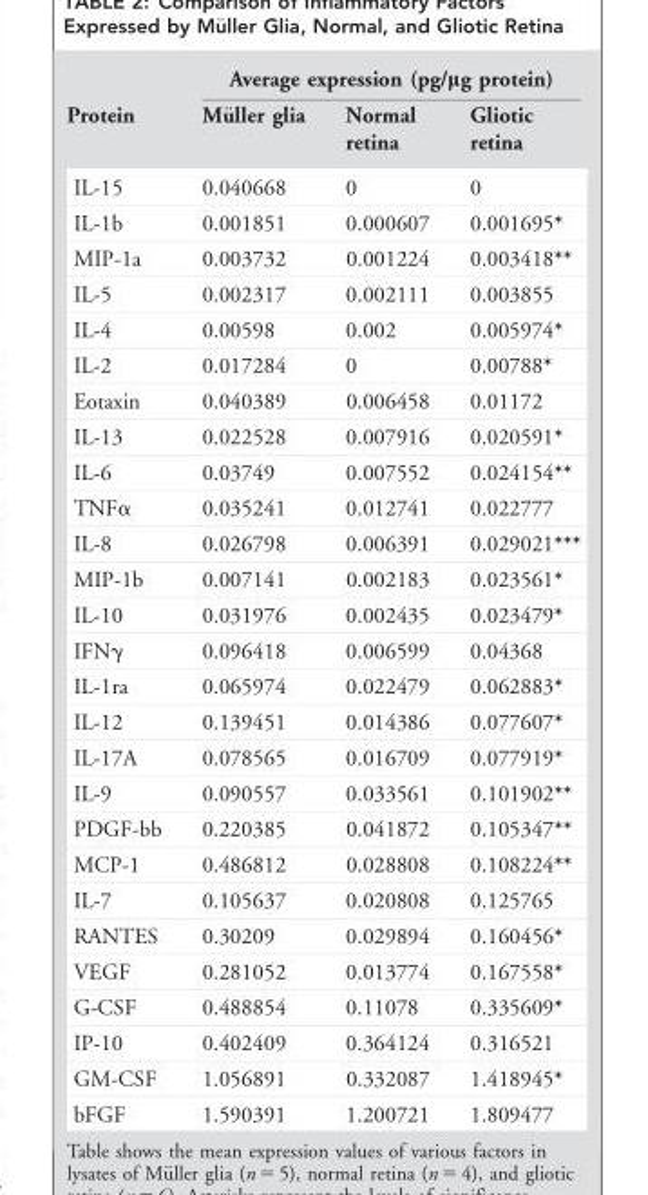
<table><thead><tr><td rowspan="2">Protein</td><td colspan="3">Average expression (pg/μg protein)</td></tr><tr><td>M€uller glia</td><td>Normal retina</td><td>Gliotic retina</td></tr></thead><tbody><tr><td>IL-15</td><td>0.040668</td><td>0</td><td>0</td></tr><tr><td>IL-1b</td><td>0.001851</td><td>0.000607</td><td>0.001695*</td></tr><tr><td>MIP-1a</td><td>0.003732</td><td>0.001224</td><td>0.003418**</td></tr><tr><td>IL-5</td><td>0.002317</td><td>0.002111</td><td>0.003855</td></tr><tr><td>IL-4</td><td>0.00598</td><td>0.002</td><td>0.005974*</td></tr><tr><td>IL-2</td><td>0.017284</td><td>0</td><td>0.00788*</td></tr><tr><td>Eotaxin</td><td>0.040389</td><td>0.006458</td><td>0.01172</td></tr><tr><td>IL-13</td><td>0.022528</td><td>0.007916</td><td>0.020591*</td></tr><tr><td>IL-6</td><td>0.03749</td><td>0.007552</td><td>0.024154**</td></tr><tr><td>TNFα</td><td>0.035241</td><td>0.012741</td><td>0.022777</td></tr><tr><td>IL-8</td><td>0.026798</td><td>0.006391</td><td>0.029021***</td></tr><tr><td>MIP-1b</td><td>0.007141</td><td>0.002183</td><td>0.023561*</td></tr><tr><td>IL-10</td><td>0.031976</td><td>0.002435</td><td>0.023479*</td></tr><tr><td>IFNγ</td><td>0.096418</td><td>0.006599</td><td>0.04368</td></tr><tr><td>IL-1ra</td><td>0.065974</td><td>0.022479</td><td>0.062883*</td></tr><tr><td>IL-12</td><td>0.139451</td><td>0.014386</td><td>0.077607*</td></tr><tr><td>IL-17A</td><td>0.078565</td><td>0.016709</td><td>0.077919*</td></tr><tr><td>IL-9</td><td>0.090557</td><td>0.033561</td><td>0.101902**</td></tr><tr><td>PDGF-bb</td><td>0.220385</td><td>0.041872</td><td>0.105347**</td></tr><tr><td>MCP-1</td><td>0.486812</td><td>0.028808</td><td>0.108224**</td></tr><tr><td>IL-7</td><td>0.105637</td><td>0.020808</td><td>0.125765</td></tr><tr><td>RANTES</td><td>0.30209</td><td>0.029894</td><td>0.160456*</td></tr><tr><td>VEGF</td><td>0.281052</td><td>0.013774</td><td>0.167558*</td></tr><tr><td>G-CSF</td><td>0.488854</td><td>0.11078</td><td>0.335609*</td></tr><tr><td>IP-10</td><td>0.402409</td><td>0.364124</td><td>0.316521</td></tr><tr><td>GM-CSF</td><td>1.056891</td><td>0.332087</td><td>1.418945*</td></tr><tr><td>bFGF</td><td>1.590391</td><td>1.200721</td><td>1.809477</td></tr></tbody></table>